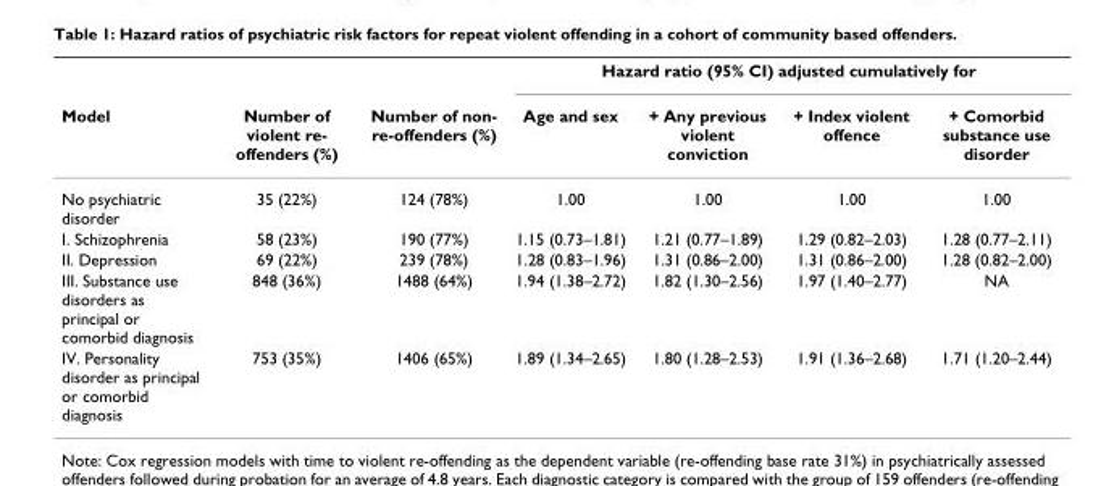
<table><thead><tr><td rowspan="2">Model</td><td rowspan="2">Number of violent re- offenders (%)</td><td rowspan="2">Number of non- re-offenders (%)</td><td colspan="4">Hazard ratio (95% CI) adjusted cumulatively for</td></tr><tr><td>Age and sex</td><td>+ Any previous violent conviction</td><td>+ Index violent offence</td><td>+ Comorbid substance use disorder</td></tr></thead><tbody><tr><td>No psychiatric disorder</td><td>35 (22%)</td><td>124 (78%)</td><td>1.00</td><td>1.00</td><td>1.00</td><td>1.00</td></tr><tr><td>I. Schizophrenia</td><td>58 (23%)</td><td>190 (77%)</td><td>1.15 (0.73–1.81)</td><td>1.21 (0.77–1.89)</td><td>1.29 (0.82–2.03)</td><td>1.28 (0.77–2.11)</td></tr><tr><td>II. Depression</td><td>69 (22%)</td><td>239 (78%)</td><td>1.28 (0.83–1.96)</td><td>1.31 (0.86–2.00)</td><td>1.31 (0.86–2.00)</td><td>1.28 (0.82–2.00)</td></tr><tr><td>III. Substance use disorders as principal or comorbid diagnosis</td><td>848 (36%)</td><td>1488 (64%)</td><td>1.94 (1.38–2.72)</td><td>1.82 (1.30–2.56)</td><td>1.97 (1.40–2.77)</td><td>NA</td></tr><tr><td>IV. Personality disorder as principal or comorbid diagnosis</td><td>753 (35%)</td><td>1406 (65%)</td><td>1.89 (1.34–2.65)</td><td>1.80 (1.28–2.53)</td><td>1.91 (1.36–2.68)</td><td>1.71 (1.20–2.44)</td></tr></tbody></table>